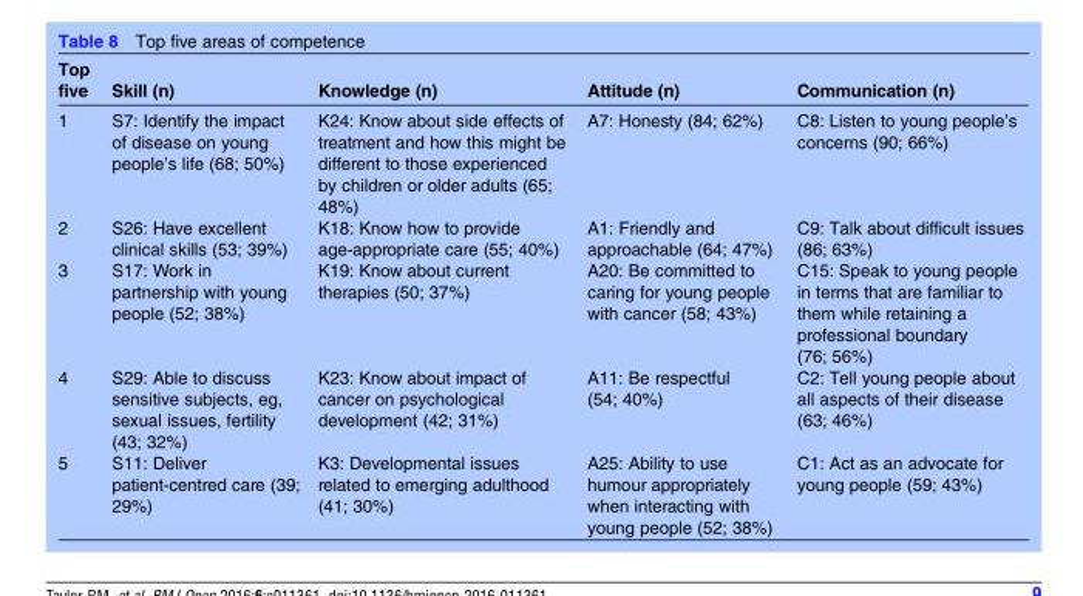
<table><thead><tr><td>Top five</td><td>Skill (n)</td><td>Knowledge (n)</td><td>Attitude (n)</td><td>Communication (n)</td></tr></thead><tbody><tr><td>1</td><td>S7: Identify the impact of disease on young people’s life (68; 50%)</td><td>K24: Know about side effects of treatment and how this might be different to those experienced by children or older adults (65; 48%)</td><td>A7: Honesty (84; 62%)</td><td>C8: Listen to young people’s concerns (90; 66%)</td></tr><tr><td>2</td><td>S26: Have excellent clinical skills (53; 39%)</td><td>K18: Know how to provide age-appropriate care (55; 40%)</td><td>A1: Friendly and approachable (64; 47%)</td><td>C9: Talk about difficult issues (86; 63%)</td></tr><tr><td>3</td><td>S17: Work in partnership with young people (52; 38%)</td><td>K19: Know about current therapies (50; 37%)</td><td>A20: Be committed to caring for young people with cancer (58; 43%)</td><td>C15: Speak to young people in terms that are familiar to them while retaining a professional boundary (76; 56%)</td></tr><tr><td>4</td><td>S29: Able to discuss sensitive subjects, eg, sexual issues, fertility (43; 32%)</td><td>K23: Know about impact of cancer on psychological development (42; 31%)</td><td>A11: Be respectful (54; 40%)</td><td>C2: Tell young people about all aspects of their disease (63; 46%)</td></tr><tr><td>5</td><td>S11: Deliver patient-centred care (39; 29%)</td><td>K3: Developmental issues related to emerging adulthood (41; 30%)</td><td>A25: Ability to use humour appropriately when interacting with young people (52; 38%)</td><td>C1: Act as an advocate for young people (59; 43%)</td></tr></tbody></table>